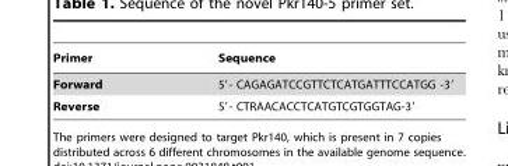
<table><thead><tr><td>Primer</td><td>Sequence</td></tr></thead><tbody><tr><td>Forward</td><td>5′- CAGAGATCCGTTCTCATGATTTCCATGG -3′</td></tr><tr><td>Reverse</td><td>5′- CTRAACACCTCATGTCGTGGTAG-3′</td></tr></tbody></table>